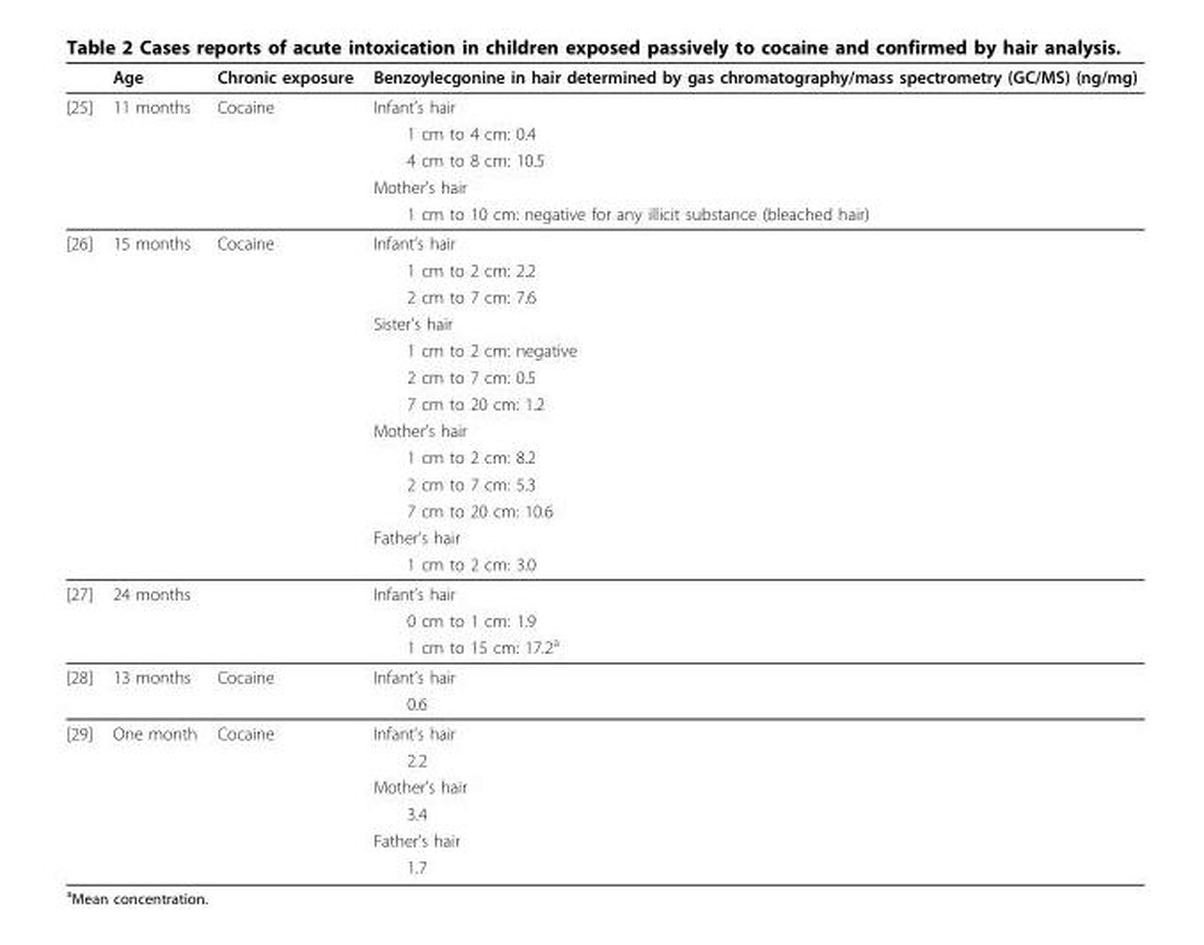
<table><thead><tr><td></td><td>Age</td><td>Chronic exposure</td><td>Benzoylecgonine in hair determined by gas chromatography/mass spectrometry (GC/MS) (ng/mg)</td></tr></thead><tbody><tr><td rowspan="5">[25]</td><td>11 months</td><td>Cocaine</td><td>Infant’s hair</td></tr><tr><td></td><td></td><td>1 cm to 4 cm: 0.4</td></tr><tr><td></td><td></td><td>4 cm to 8 cm: 10.5</td></tr><tr><td></td><td></td><td>Mother’s hair</td></tr><tr><td></td><td></td><td>1 cm to 10 cm: negative for any illicit substance (bleached hair)</td></tr><tr><td rowspan="13">[26]</td><td>15 months</td><td>Cocaine</td><td>Infant’s hair</td></tr><tr><td></td><td></td><td>1 cm to 2 cm: 2.2</td></tr><tr><td></td><td></td><td>2 cm to 7 cm: 7.6</td></tr><tr><td></td><td></td><td>Sister’s hair</td></tr><tr><td></td><td></td><td>1 cm to 2 cm: negative</td></tr><tr><td></td><td></td><td>2 cm to 7 cm: 0.5</td></tr><tr><td></td><td></td><td>7 cm to 20 cm: 1.2</td></tr><tr><td></td><td></td><td>Mother’s hair</td></tr><tr><td></td><td></td><td>1 cm to 2 cm: 8.2</td></tr><tr><td></td><td></td><td>2 cm to 7 cm: 5.3</td></tr><tr><td></td><td></td><td>7 cm to 20 cm: 10.6</td></tr><tr><td></td><td></td><td>Father’s hair</td></tr><tr><td></td><td></td><td>1 cm to 2 cm: 3.0</td></tr><tr><td rowspan="3">[27]</td><td>24 months</td><td></td><td>Infant’s hair</td></tr><tr><td></td><td></td><td>0 cm to 1 cm: 1.9</td></tr><tr><td></td><td></td><td>1 cm to 15 cm: 17.2<sup>a</sup></td></tr><tr><td rowspan="2">[28]</td><td>13 months</td><td>Cocaine</td><td>Infant’s hair</td></tr><tr><td></td><td></td><td>0.6</td></tr><tr><td rowspan="6">[29]</td><td>One month</td><td>Cocaine</td><td>Infant’s hair</td></tr><tr><td></td><td></td><td>2.2</td></tr><tr><td></td><td></td><td>Mother’s hair</td></tr><tr><td></td><td></td><td>3.4</td></tr><tr><td></td><td></td><td>Father’s hair</td></tr><tr><td></td><td></td><td>1.7</td></tr></tbody></table>